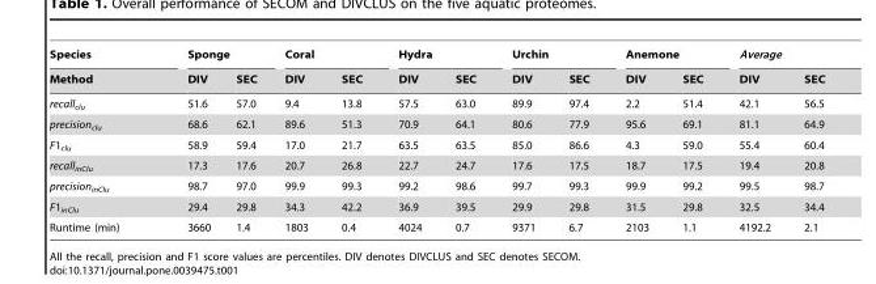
<table><thead><tr><td rowspan="2">Species Method</td><td colspan="2">Sponge</td><td colspan="2">Coral</td><td colspan="2">Hydra</td><td colspan="2">Urchin</td><td colspan="2">Anemone</td><td colspan="2">Average</td></tr><tr><td>DIV</td><td>SEC</td><td>DIV</td><td>SEC</td><td>DIV</td><td>SEC</td><td>DIV</td><td>SEC</td><td>DIV</td><td>SEC</td><td>DIV</td><td>SEC</td></tr></thead><tbody><tr><td>recall<sub>clu</sub></td><td>51.6</td><td>57.0</td><td>9.4</td><td>13.8</td><td>57.5</td><td>63.0</td><td>89.9</td><td>97.4</td><td>2.2</td><td>51.4</td><td>42.1</td><td>56.5</td></tr><tr><td>precision<sub>clu</sub></td><td>68.6</td><td>62.1</td><td>89.6</td><td>51.3</td><td>70.9</td><td>64.1</td><td>80.6</td><td>77.9</td><td>95.6</td><td>69.1</td><td>81.1</td><td>64.9</td></tr><tr><td>F1<sub>clu</sub></td><td>58.9</td><td>59.4</td><td>17.0</td><td>21.7</td><td>63.5</td><td>63.5</td><td>85.0</td><td>86.6</td><td>4.3</td><td>59.0</td><td>55.4</td><td>60.4</td></tr><tr><td>recall<sub>inClu</sub></td><td>17.3</td><td>17.6</td><td>20.7</td><td>26.8</td><td>22.7</td><td>24.7</td><td>17.6</td><td>17.5</td><td>18.7</td><td>17.5</td><td>19.4</td><td>20.8</td></tr><tr><td>precision<sub>inClu</sub></td><td>98.7</td><td>97.0</td><td>99.9</td><td>99.3</td><td>99.2</td><td>98.6</td><td>99.7</td><td>99.3</td><td>99.9</td><td>99.2</td><td>99.5</td><td>98.7</td></tr><tr><td>F1<sub>inClu</sub></td><td>29.4</td><td>29.8</td><td>34.3</td><td>42.2</td><td>36.9</td><td>39.5</td><td>29.9</td><td>29.8</td><td>31.5</td><td>29.8</td><td>32.5</td><td>34.4</td></tr><tr><td>Runtime (min)</td><td>3660</td><td>1.4</td><td>1803</td><td>0.4</td><td>4024</td><td>0.7</td><td>9371</td><td>6.7</td><td>2103</td><td>1.1</td><td>4192.2</td><td>2.1</td></tr></tbody></table>